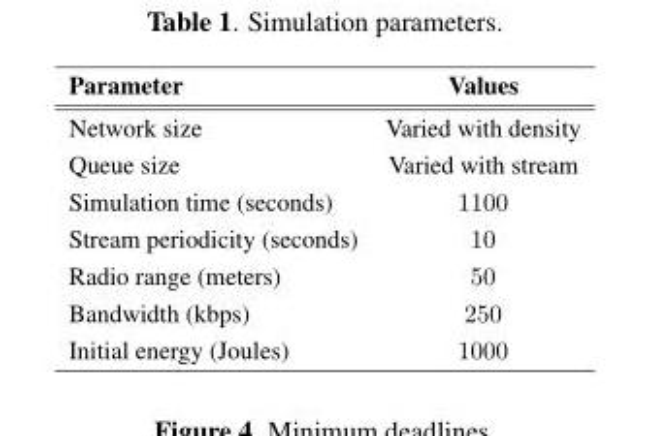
<table><thead><tr><td>Parameter</td><td>Values</td></tr></thead><tbody><tr><td>Network size</td><td>Varied with density</td></tr><tr><td>Queue size</td><td>Varied with stream</td></tr><tr><td>Simulation time (seconds)</td><td>1100</td></tr><tr><td>Stream periodicity (seconds)</td><td>10</td></tr><tr><td>Radio range (meters)</td><td>50</td></tr><tr><td>Bandwidth (kbps)</td><td>250</td></tr><tr><td>Initial energy (Joules)</td><td>1000</td></tr></tbody></table>